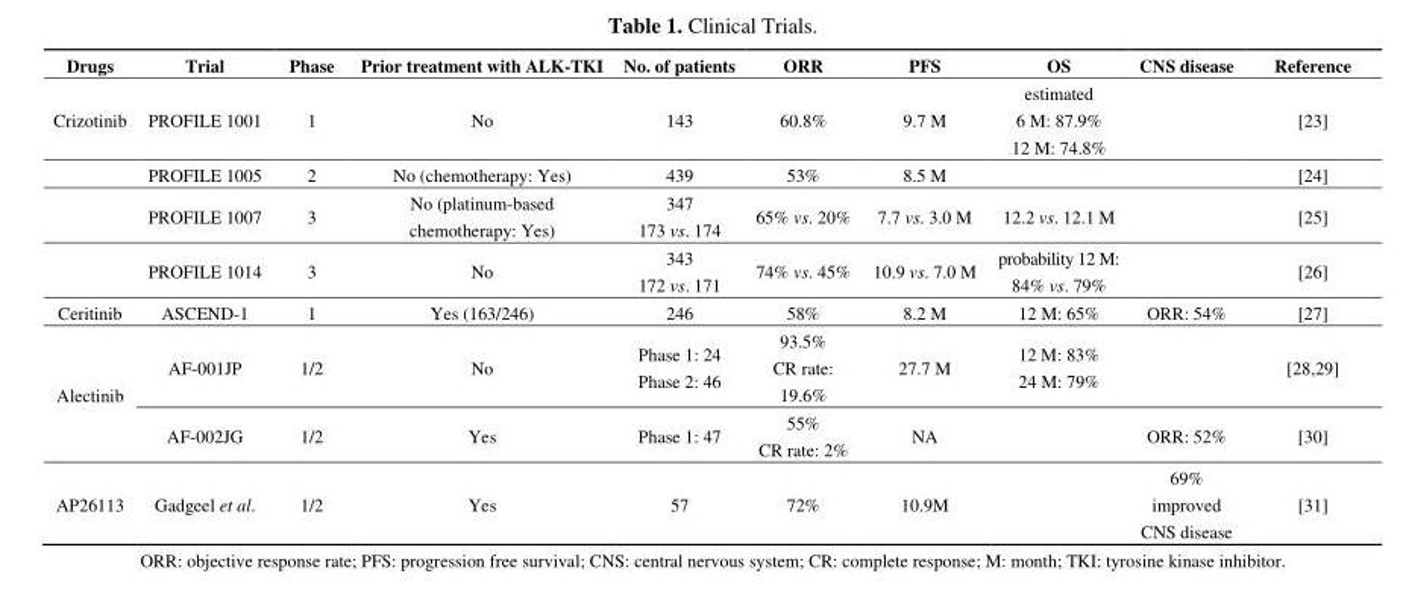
<table><thead><tr><td>Drugs</td><td>Trial</td><td>Phase</td><td>Prior treatment with ALK-TKI</td><td>No. of patients</td><td>ORR</td><td>PFS</td><td>OS</td><td>CNS disease</td><td>Reference</td></tr></thead><tbody><tr><td rowspan="4">Crizotinib</td><td>PROFILE 1001</td><td>1</td><td>No</td><td>143</td><td>60.8%</td><td>9.7 M</td><td>estimated 6 M: 87.9% 12 M: 74.8%</td><td></td><td>[23]</td></tr><tr><td>PROFILE 1005</td><td>2</td><td>No (chemotherapy: Yes)</td><td>439</td><td>53%</td><td>8.5 M</td><td></td><td></td><td>[24]</td></tr><tr><td>PROFILE 1007</td><td>3</td><td>No (platinum-based chemotherapy: Yes)</td><td>347 173 vs. 174</td><td>65% vs. 20%</td><td>7.7 vs. 3.0 M</td><td>12.2 vs. 12.1 M</td><td></td><td>[25]</td></tr><tr><td>PROFILE 1014</td><td>3</td><td>No</td><td>343 172 vs. 171</td><td>74% vs. 45%</td><td>10.9 vs. 7.0 M</td><td>probability 12 M: 84% vs. 79%</td><td></td><td>[26]</td></tr><tr><td>Ceritinib</td><td>ASCEND-1</td><td>1</td><td>Yes (163/246)</td><td>246</td><td>58%</td><td>8.2 M</td><td>12 M: 65%</td><td>ORR: 54%</td><td>[27]</td></tr><tr><td rowspan="2">Alectinib</td><td>AF-001JP</td><td>1/2</td><td>No</td><td>Phase 1: 24 Phase 2: 46</td><td>93.5% CR rate: 19.6%</td><td>27.7 M</td><td>12 M: 83% 24 M: 79%</td><td></td><td>[28,29]</td></tr><tr><td>AF-002JG</td><td>1/2</td><td>Yes</td><td>Phase 1: 47</td><td>55% CR rate: 2%</td><td>NA</td><td></td><td>ORR: 52%</td><td>[30]</td></tr><tr><td>AP26113</td><td>Gadgeel et al.</td><td>1/2</td><td>Yes</td><td>57</td><td>72%</td><td>10.9M</td><td></td><td>69% improved CNS disease</td><td>[31]</td></tr></tbody></table>